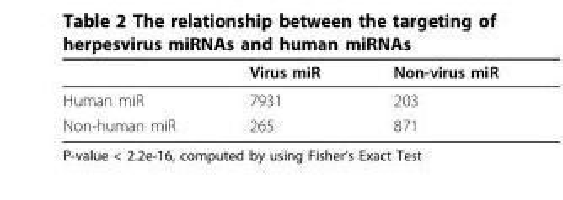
<table><thead><tr><td></td><td>Virus miR</td><td>Non-virus miR</td></tr></thead><tbody><tr><td>Human miR</td><td>7931</td><td>203</td></tr><tr><td>Non-human miR</td><td>265</td><td>871</td></tr></tbody></table>